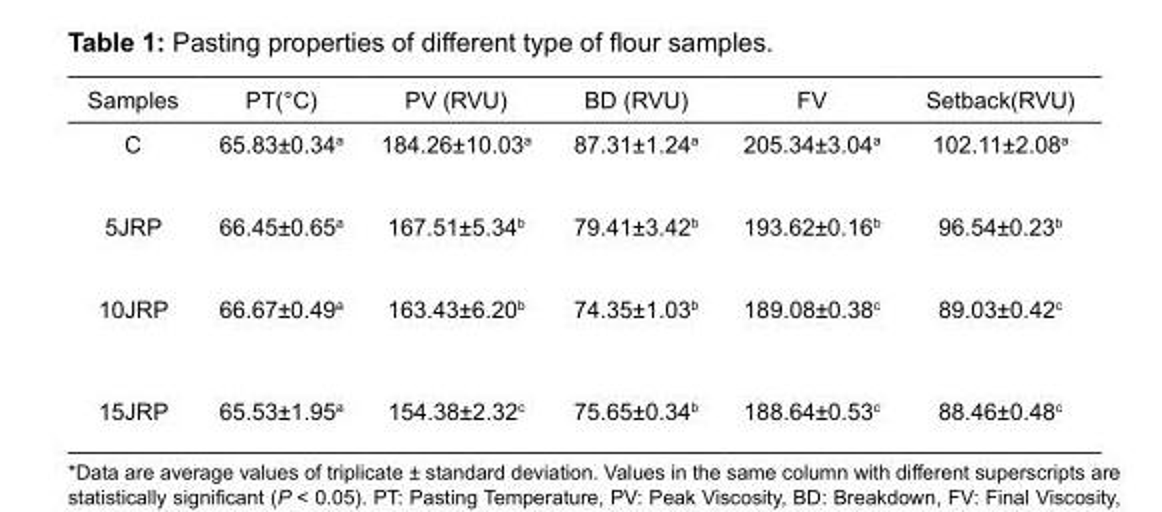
<table><thead><tr><td>Samples</td><td>PT(°C)</td><td>PV (RVU)</td><td>BD (RVU)</td><td>FV</td><td>Setback(RVU)</td></tr></thead><tbody><tr><td>C</td><td>65.83±0.34<sup>a</sup></td><td>184.26±10.03<sup>a</sup></td><td>87.31±1.24<sup>a</sup></td><td>205.34±3.04<sup>a</sup></td><td>102.11±2.08<sup>a</sup></td></tr><tr><td>5JRP</td><td>66.45±0.65<sup>a</sup></td><td>167.51±5.34<sup>b</sup></td><td>79.41±3.42<sup>b</sup></td><td>193.62±0.16<sup>b</sup></td><td>96.54±0.23<sup>b</sup></td></tr><tr><td>10JRP</td><td>66.67±0.49<sup>a</sup></td><td>163.43±6.20<sup>b</sup></td><td>74.35±1.03<sup>b</sup></td><td>189.08±0.38<sup>c</sup></td><td>89.03±0.42<sup>c</sup></td></tr><tr><td>15JRP</td><td>65.53±1.95<sup>a</sup></td><td>154.38±2.32<sup>c</sup></td><td>75.65±0.34<sup>b</sup></td><td>188.64±0.53<sup>c</sup></td><td>88.46±0.48<sup>c</sup></td></tr></tbody></table>